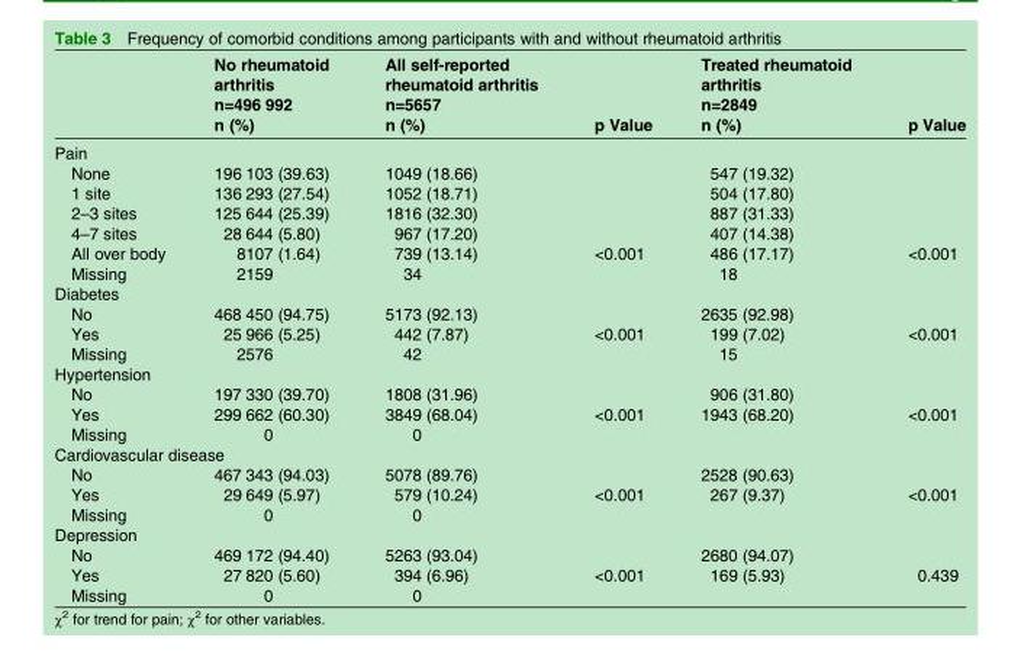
<table><thead><tr><td rowspan="2"></td><td rowspan="2">No rheumatoid arthritis n=496 992 n (%)</td><td rowspan="2">All self-reported rheumatoid arthritis n=5657 n (%)</td><td rowspan="2">p Value</td><td rowspan="2">Treated rheumatoid arthritis n=2849 n (%)</td><td rowspan="2">p Value</td></tr><tr></tr></thead><tbody><tr><td colspan="6">Pain</td></tr><tr><td>None</td><td>196 103 (39.63)</td><td>1049 (18.66)</td><td></td><td>547 (19.32)</td><td></td></tr><tr><td>1 site</td><td>136 293 (27.54)</td><td>1052 (18.71)</td><td></td><td>504 (17.80)</td><td></td></tr><tr><td>2–3 sites</td><td>125 644 (25.39)</td><td>1816 (32.30)</td><td></td><td>887 (31.33)</td><td></td></tr><tr><td>4–7 sites</td><td>28 644 (5.80)</td><td>967 (17.20)</td><td></td><td>407 (14.38)</td><td></td></tr><tr><td>All over body</td><td>8107 (1.64)</td><td>739 (13.14)</td><td>&lt;0.001</td><td>486 (17.17)</td><td>&lt;0.001</td></tr><tr><td>Missing</td><td>2159</td><td>34</td><td></td><td>18</td><td></td></tr><tr><td colspan="6">Diabetes</td></tr><tr><td>No</td><td>468 450 (94.75)</td><td>5173 (92.13)</td><td></td><td>2635 (92.98)</td><td></td></tr><tr><td>Yes</td><td>25 966 (5.25)</td><td>442 (7.87)</td><td>&lt;0.001</td><td>199 (7.02)</td><td>&lt;0.001</td></tr><tr><td>Missing</td><td>2576</td><td>42</td><td></td><td>15</td><td></td></tr><tr><td colspan="6">Hypertension</td></tr><tr><td>No</td><td>197 330 (39.70)</td><td>1808 (31.96)</td><td></td><td>906 (31.80)</td><td></td></tr><tr><td>Yes</td><td>299 662 (60.30)</td><td>3849 (68.04)</td><td>&lt;0.001</td><td>1943 (68.20)</td><td>&lt;0.001</td></tr><tr><td>Missing</td><td>0</td><td>0</td><td></td><td></td><td></td></tr><tr><td colspan="6">Cardiovascular disease</td></tr><tr><td>No</td><td>467 343 (94.03)</td><td>5078 (89.76)</td><td></td><td>2528 (90.63)</td><td></td></tr><tr><td>Yes</td><td>29 649 (5.97)</td><td>579 (10.24)</td><td>&lt;0.001</td><td>267 (9.37)</td><td>&lt;0.001</td></tr><tr><td>Missing</td><td>0</td><td>0</td><td></td><td></td><td></td></tr><tr><td colspan="6">Depression</td></tr><tr><td>No</td><td>469 172 (94.40)</td><td>5263 (93.04)</td><td></td><td>2680 (94.07)</td><td></td></tr><tr><td>Yes</td><td>27 820 (5.60)</td><td>394 (6.96)</td><td>&lt;0.001</td><td>169 (5.93)</td><td>0.439</td></tr><tr><td>Missing</td><td>0</td><td>0</td><td></td><td></td><td></td></tr></tbody></table>